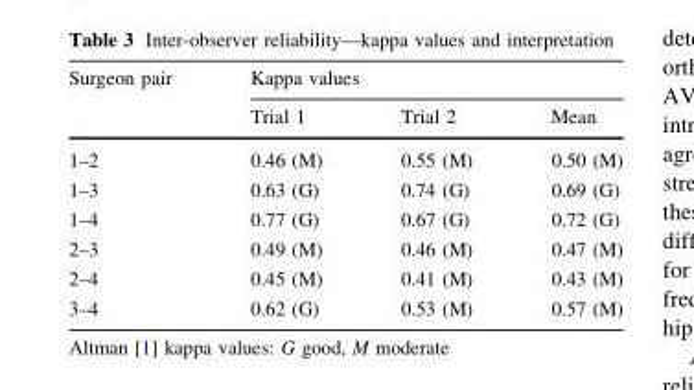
<table><thead><tr><td rowspan="2">Surgeon pair</td><td colspan="3">Kappa values</td></tr><tr><td>Trial 1</td><td>Trial 2</td><td>Mean</td></tr></thead><tbody><tr><td>1–2</td><td>0.46 (M)</td><td>0.55 (M)</td><td>0.50 (M)</td></tr><tr><td>1–3</td><td>0.63 (G)</td><td>0.74 (G)</td><td>0.69 (G)</td></tr><tr><td>1–4</td><td>0.77 (G)</td><td>0.67 (G)</td><td>0.72 (G)</td></tr><tr><td>2–3</td><td>0.49 (M)</td><td>0.46 (M)</td><td>0.47 (M)</td></tr><tr><td>2–4</td><td>0.45 (M)</td><td>0.41 (M)</td><td>0.43 (M)</td></tr><tr><td>3–4</td><td>0.62 (G)</td><td>0.53 (M)</td><td>0.57 (M)</td></tr></tbody></table>